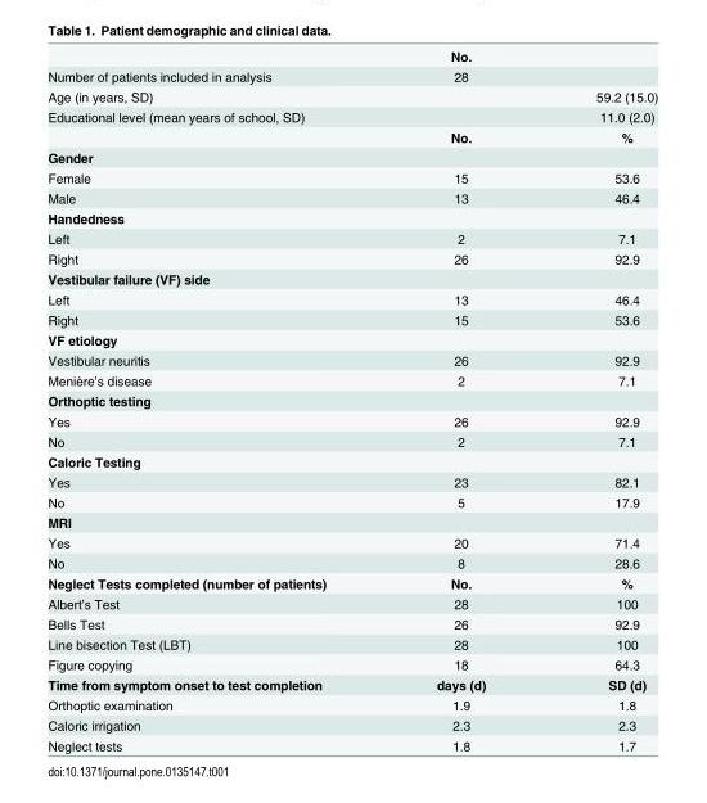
<table><thead><tr><td></td><td>No.</td><td></td></tr></thead><tbody><tr><td>Number of patients included in analysis</td><td>28</td><td></td></tr><tr><td>Age (in years, SD)</td><td></td><td>59.2 (15.0)</td></tr><tr><td rowspan="2">Educational level (mean years of school, SD)</td><td></td><td>11.0 (2.0)</td></tr><tr><td>No.</td><td>%</td></tr><tr><td colspan="3">Gender</td></tr><tr><td>Female</td><td>15</td><td>53.6</td></tr><tr><td>Male</td><td>13</td><td>46.4</td></tr><tr><td colspan="3">Handedness</td></tr><tr><td>Left</td><td>2</td><td>7.1</td></tr><tr><td>Right</td><td>26</td><td>92.9</td></tr><tr><td colspan="3">Vestibular failure (VF) side</td></tr><tr><td>Left</td><td>13</td><td>46.4</td></tr><tr><td>Right</td><td>15</td><td>53.6</td></tr><tr><td colspan="3">VF etiology</td></tr><tr><td>Vestibular neuritis</td><td>26</td><td>92.9</td></tr><tr><td>Menière’s disease</td><td>2</td><td>7.1</td></tr><tr><td colspan="3">Orthoptic testing</td></tr><tr><td>Yes</td><td>26</td><td>92.9</td></tr><tr><td>No</td><td>2</td><td>7.1</td></tr><tr><td colspan="3">Caloric Testing</td></tr><tr><td>Yes</td><td>23</td><td>82.1</td></tr><tr><td>No</td><td>5</td><td>17.9</td></tr><tr><td colspan="3">MRI</td></tr><tr><td>Yes</td><td>20</td><td>71.4</td></tr><tr><td>No</td><td>8</td><td>28.6</td></tr><tr><td>Neglect Tests completed (number of patients)</td><td>No.</td><td>%</td></tr><tr><td>Albert’s Test</td><td>28</td><td>100</td></tr><tr><td>Bells Test</td><td>26</td><td>92.9</td></tr><tr><td>Line bisection Test (LBT)</td><td>28</td><td>100</td></tr><tr><td>Figure copying</td><td>18</td><td>64.3</td></tr><tr><td>Time from symptom onset to test completion</td><td>days (d)</td><td>SD (d)</td></tr><tr><td>Orthoptic examination</td><td>1.9</td><td>1.8</td></tr><tr><td>Caloric irrigation</td><td>2.3</td><td>2.3</td></tr><tr><td>Neglect tests</td><td>1.8</td><td>1.7</td></tr></tbody></table>